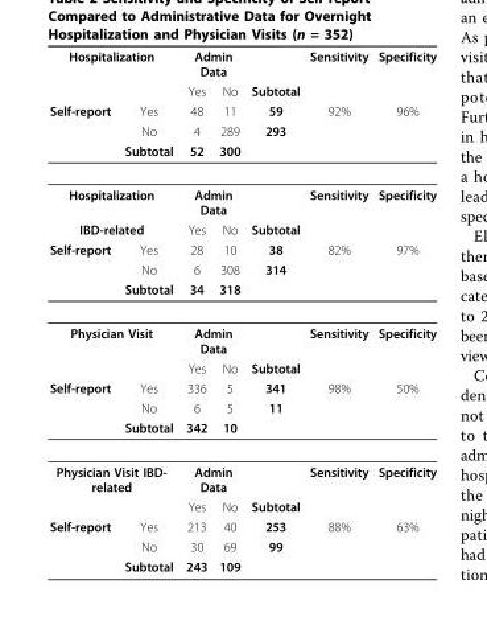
<table><thead><tr><td colspan="2">Hospitalization</td><td colspan="2">Admin Data</td><td rowspan="5">Subtotal 59 293</td><td rowspan="5">Sensitivity 92%</td><td rowspan="5">Specificity 96%</td></tr><tr><td rowspan="4">Self-report</td><td rowspan="4">Yes No Subtotal</td><td rowspan="4">Yes 48 4 52</td><td rowspan="4">No 11 289 300</td></tr><tr></tr><tr></tr><tr></tr></thead><tbody><tr><td colspan="2">Hospitalization</td><td colspan="2">Admin Data</td><td></td><td>Sensitivity</td><td>Specificity</td></tr><tr><td colspan="2">IBD-related</td><td>Yes</td><td>No</td><td>Subtotal</td><td></td><td></td></tr><tr><td rowspan="3">Self-report</td><td>Yes</td><td>28</td><td>10</td><td>38</td><td>82%</td><td>97%</td></tr><tr><td>No</td><td>6</td><td>308</td><td>314</td><td></td><td></td></tr><tr><td>Subtotal</td><td>34</td><td>318</td><td></td><td></td><td></td></tr><tr><td colspan="2">Physician Visit</td><td colspan="2">Admin Data</td><td></td><td>Sensitivity</td><td>Specificity</td></tr><tr><td></td><td></td><td>Yes</td><td>No</td><td>Subtotal</td><td></td><td></td></tr><tr><td rowspan="3">Self-report</td><td>Yes</td><td>336</td><td>5</td><td>341</td><td>98%</td><td>50%</td></tr><tr><td>No</td><td>6</td><td>5</td><td>11</td><td></td><td></td></tr><tr><td>Subtotal</td><td>342</td><td>10</td><td></td><td></td><td></td></tr><tr><td colspan="2">Physician Visit IBD- related</td><td colspan="2">Admin Data</td><td></td><td>Sensitivity</td><td>Specificity</td></tr><tr><td></td><td></td><td>Yes</td><td>No</td><td>Subtotal</td><td></td><td></td></tr><tr><td rowspan="3">Self-report</td><td>Yes</td><td>213</td><td>40</td><td>253</td><td>88%</td><td>63%</td></tr><tr><td>No</td><td>30</td><td>69</td><td>99</td><td></td><td></td></tr><tr><td>Subtotal</td><td>243</td><td>109</td><td></td><td></td><td></td></tr></tbody></table>